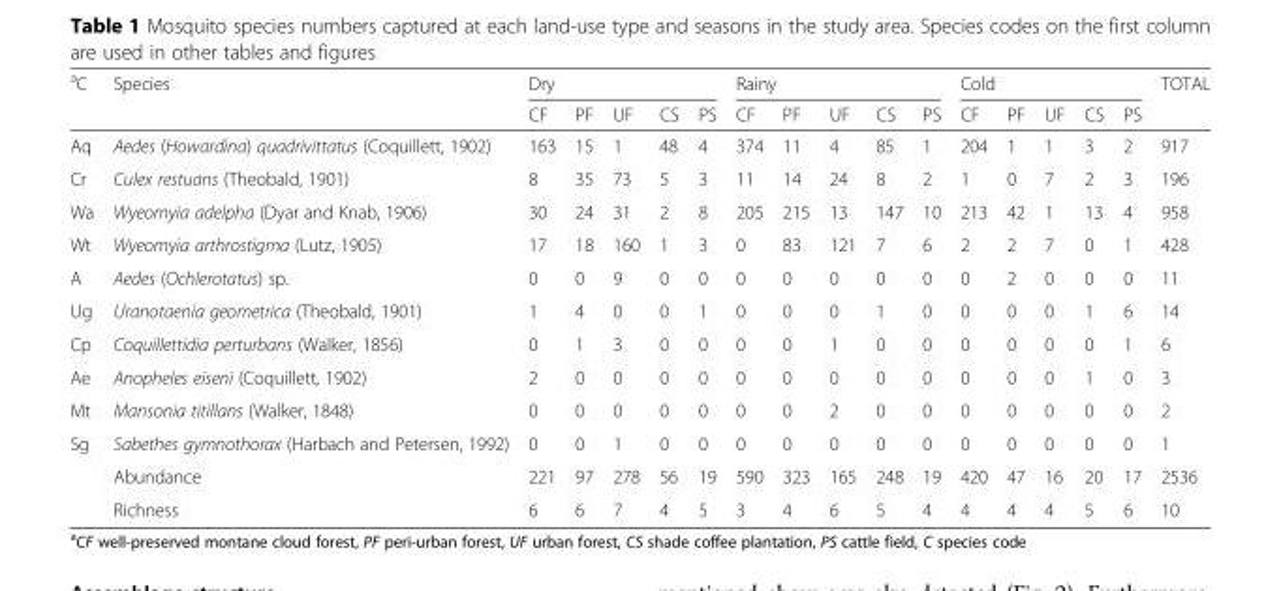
<table><thead><tr><td rowspan="2"><sup>a</sup>C</td><td rowspan="2">Species</td><td colspan="5">Dry</td><td colspan="5">Rainy</td><td colspan="5">Cold</td><td rowspan="2">TOTAL</td></tr><tr><td>CF</td><td>PF</td><td>UF</td><td>CS</td><td>PS</td><td>CF</td><td>PF</td><td>UF</td><td>CS</td><td>PS</td><td>CF</td><td>PF</td><td>UF</td><td>CS</td><td>PS</td></tr></thead><tbody><tr><td>Aq</td><td>Aedes (Howardina) quadrivittatus (Coquillett, 1902)</td><td>163</td><td>15</td><td>1</td><td>48</td><td>4</td><td>374</td><td>11</td><td>4</td><td>85</td><td>1</td><td>204</td><td>1</td><td>1</td><td>3</td><td>2</td><td>917</td></tr><tr><td>Cr</td><td>Culex restuans (Theobald, 1901)</td><td>8</td><td>35</td><td>73</td><td>5</td><td>3</td><td>11</td><td>14</td><td>24</td><td>8</td><td>2</td><td>1</td><td>0</td><td>7</td><td>2</td><td>3</td><td>196</td></tr><tr><td>Wa</td><td>Wyeomyia adelpha (Dyar and Knab, 1906)</td><td>30</td><td>24</td><td>31</td><td>2</td><td>8</td><td>205</td><td>215</td><td>13</td><td>147</td><td>10</td><td>213</td><td>42</td><td>1</td><td>13</td><td>4</td><td>958</td></tr><tr><td>Wt</td><td>Wyeomyia arthrostigma (Lutz, 1905)</td><td>17</td><td>18</td><td>160</td><td>1</td><td>3</td><td>0</td><td>83</td><td>121</td><td>7</td><td>6</td><td>2</td><td>2</td><td>7</td><td>0</td><td>1</td><td>428</td></tr><tr><td>A</td><td>Aedes (Ochlerotatus) sp.</td><td>0</td><td>0</td><td>9</td><td>0</td><td>0</td><td>0</td><td>0</td><td>0</td><td>0</td><td>0</td><td>0</td><td>2</td><td>0</td><td>0</td><td>0</td><td>11</td></tr><tr><td>Ug</td><td>Uranotaenia geometrica (Theobald, 1901)</td><td>1</td><td>4</td><td>0</td><td>0</td><td>1</td><td>0</td><td>0</td><td>0</td><td>1</td><td>0</td><td>0</td><td>0</td><td>0</td><td>1</td><td>6</td><td>14</td></tr><tr><td>Cp</td><td>Coquillettidia perturbans (Walker, 1856)</td><td>0</td><td>1</td><td>3</td><td>0</td><td>0</td><td>0</td><td>0</td><td>1</td><td>0</td><td>0</td><td>0</td><td>0</td><td>0</td><td>0</td><td>1</td><td>6</td></tr><tr><td>Ae</td><td>Anopheles eiseni (Coquillett, 1902)</td><td>2</td><td>0</td><td>0</td><td>0</td><td>0</td><td>0</td><td>0</td><td>0</td><td>0</td><td>0</td><td>0</td><td>0</td><td>0</td><td>1</td><td>0</td><td>3</td></tr><tr><td>Mt</td><td>Mansonia titillans (Walker, 1848)</td><td>0</td><td>0</td><td>0</td><td>0</td><td>0</td><td>0</td><td>0</td><td>2</td><td>0</td><td>0</td><td>0</td><td>0</td><td>0</td><td>0</td><td>0</td><td>2</td></tr><tr><td rowspan="3">Sg</td><td>Sabethes gymnothorax (Harbach and Petersen, 1992)</td><td>0</td><td>0</td><td>1</td><td>0</td><td>0</td><td>0</td><td>0</td><td>0</td><td>0</td><td>0</td><td>0</td><td>0</td><td>0</td><td>0</td><td>0</td><td>1</td></tr><tr><td>Abundance</td><td>221</td><td>97</td><td>278</td><td>56</td><td>19</td><td>590</td><td>323</td><td>165</td><td>248</td><td>19</td><td>420</td><td>47</td><td>16</td><td>20</td><td>17</td><td>2536</td></tr><tr><td>Richness</td><td>6</td><td>6</td><td>7</td><td>4</td><td>5</td><td>3</td><td>4</td><td>6</td><td>5</td><td>4</td><td>4</td><td>4</td><td>4</td><td>5</td><td>6</td><td>10</td></tr></tbody></table>